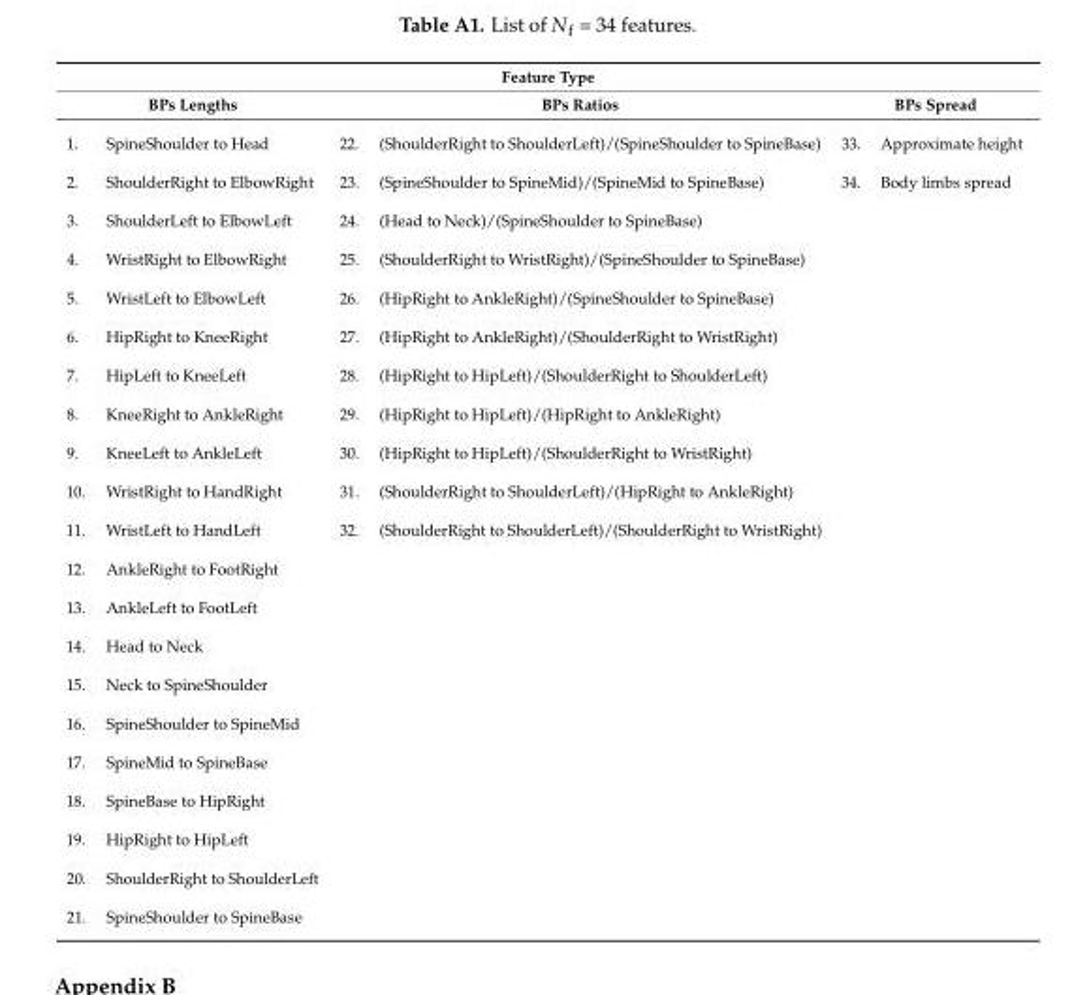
<table><thead><tr><td colspan="3">Feature Type</td></tr><tr><td>BPs Lengths</td><td>BPs Ratios</td><td>BPs Spread</td></tr></thead><tbody><tr><td>1. SpineShoulder to Head</td><td>22. (ShoulderRight to ShoulderLeft)/(SpineShoulder to SpineBase)</td><td>33. Approximate height</td></tr><tr><td>2. ShoulderRight to ElbowRight</td><td>23. (SpineShoulder to SpineMid)/(SpineMid to SpineBase)</td><td>34. Body limbs spread</td></tr><tr><td>3. ShoulderLeft to ElbowLeft</td><td>24. (Head to Neck)/(SpineShoulder to SpineBase)</td><td></td></tr><tr><td>4. WristRight to ElbowRight</td><td>25. (ShoulderRight to WristRight)/(SpineShoulder to SpineBase)</td><td></td></tr><tr><td>5. WristLeft to ElbowLeft</td><td>26. (HipRight to AnkleRight)/(SpineShoulder to SpineBase)</td><td></td></tr><tr><td>6. HipRight to KneeRight</td><td>27. (HipRight to AnkleRight)/(ShoulderRight to WristRight)</td><td></td></tr><tr><td>7. HipLeft to KneeLeft</td><td>28. (HipRight to HipLeft)/(ShoulderRight to ShoulderLeft)</td><td></td></tr><tr><td>8. KneeRight to AnkleRight</td><td>29. (HipRight to HipLeft)/(HipRight to AnkleRight)</td><td></td></tr><tr><td>9. KneeLeft to AnkleLeft</td><td>30. (HipRight to HipLeft)/(ShoulderRight to WristRight)</td><td></td></tr><tr><td>10. WristRight to HandRight</td><td>31. (ShoulderRight to ShoulderLeft)/(HipRight to AnkleRight)</td><td></td></tr><tr><td>11. WristLeft to HandLeft</td><td>32. (ShoulderRight to ShoulderLeft)/(ShoulderRight to WristRight)</td><td></td></tr><tr><td colspan="3">12. AnkleRight to FootRight</td></tr><tr><td colspan="3">13. AnkleLeft to FootLeft</td></tr><tr><td colspan="3">14. Head to Neck</td></tr><tr><td colspan="3">15. Neck to SpineShoulder</td></tr><tr><td colspan="3">16. SpineShoulder to SpineMid</td></tr><tr><td colspan="3">17. SpineMid to SpineBase</td></tr><tr><td colspan="3">18. SpineBase to HipRight</td></tr><tr><td colspan="3">19. HipRight to HipLeft</td></tr><tr><td colspan="3">20. ShoulderRight to ShoulderLeft</td></tr><tr><td>21. SpineShoulder to SpineBase</td><td></td><td></td></tr></tbody></table>